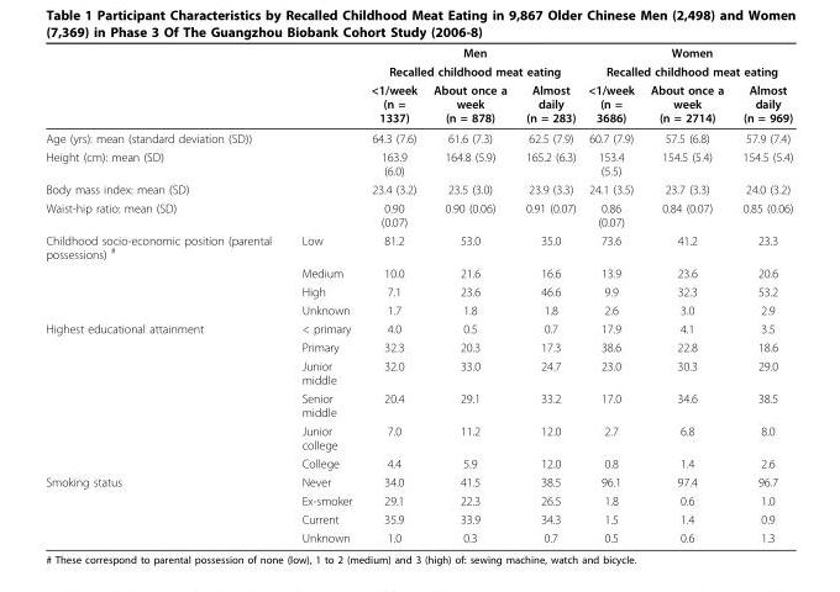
<table><thead><tr><td rowspan="3"></td><td rowspan="3"></td><td rowspan="2" colspan="3">Men Recalled childhood meat eating</td><td rowspan="2" colspan="3">Women Recalled childhood meat eating</td></tr><tr></tr><tr><td>&lt;1/week (n = 1337)</td><td>About once a week (n = 878)</td><td>Almost daily (n = 283)</td><td>&lt;1/week (n = 3686)</td><td>About once a week (n = 2714)</td><td>Almost daily (n = 969)</td></tr></thead><tbody><tr><td colspan="2">Age (yrs): mean (standard deviation (SD))</td><td>64.3 (7.6)</td><td>61.6 (7.3)</td><td>62.5 (7.9)</td><td>60.7 (7.9)</td><td>57.5 (6.8)</td><td>57.9 (7.4)</td></tr><tr><td colspan="2">Height (cm): mean (SD)</td><td>163.9 (6.0)</td><td>164.8 (5.9)</td><td>165.2 (6.3)</td><td>153.4 (5.5)</td><td>154.5 (5.4)</td><td>154.5 (5.4)</td></tr><tr><td colspan="2">Body mass index: mean (SD)</td><td>23.4 (3.2)</td><td>23.5 (3.0)</td><td>23.9 (3.3)</td><td>24.1 (3.5)</td><td>23.7 (3.3)</td><td>24.0 (3.2)</td></tr><tr><td colspan="2">Waist-hip ratio: mean (SD)</td><td>0.90 (0.07)</td><td>0.90 (0.06)</td><td>0.91 (0.07)</td><td>0.86 (0.07)</td><td>0.84 (0.07)</td><td>0.85 (0.06)</td></tr><tr><td rowspan="4">Childhood socio-economic position (parental possessions) <sup>#</sup></td><td>Low</td><td>81.2</td><td>53.0</td><td>35.0</td><td>73.6</td><td>41.2</td><td>23.3</td></tr><tr><td>Medium</td><td>10.0</td><td>21.6</td><td>16.6</td><td>13.9</td><td>23.6</td><td>20.6</td></tr><tr><td>High</td><td>7.1</td><td>23.6</td><td>46.6</td><td>9.9</td><td>32.3</td><td>53.2</td></tr><tr><td>Unknown</td><td>1.7</td><td>1.8</td><td>1.8</td><td>2.6</td><td>3.0</td><td>2.9</td></tr><tr><td rowspan="6">Highest educational attainment</td><td>&lt; primary</td><td>4.0</td><td>0.5</td><td>0.7</td><td>17.9</td><td>4.1</td><td>3.5</td></tr><tr><td>Primary</td><td>32.3</td><td>20.3</td><td>17.3</td><td>38.6</td><td>22.8</td><td>18.6</td></tr><tr><td>Junior middle</td><td>32.0</td><td>33.0</td><td>24.7</td><td>23.0</td><td>30.3</td><td>29.0</td></tr><tr><td>Senior middle</td><td>20.4</td><td>29.1</td><td>33.2</td><td>17.0</td><td>34.6</td><td>38.5</td></tr><tr><td>Junior college</td><td>7.0</td><td>11.2</td><td>12.0</td><td>2.7</td><td>6.8</td><td>8.0</td></tr><tr><td>College</td><td>4.4</td><td>5.9</td><td>12.0</td><td>0.8</td><td>1.4</td><td>2.6</td></tr><tr><td rowspan="4">Smoking status</td><td>Never</td><td>34.0</td><td>41.5</td><td>38.5</td><td>96.1</td><td>97.4</td><td>96.7</td></tr><tr><td>Ex-smoker</td><td>29.1</td><td>22.3</td><td>26.5</td><td>1.8</td><td>0.6</td><td>1.0</td></tr><tr><td>Current</td><td>35.9</td><td>33.9</td><td>34.3</td><td>1.5</td><td>1.4</td><td>0.9</td></tr><tr><td>Unknown</td><td>1.0</td><td>0.3</td><td>0.7</td><td>0.5</td><td>0.6</td><td>1.3</td></tr></tbody></table>